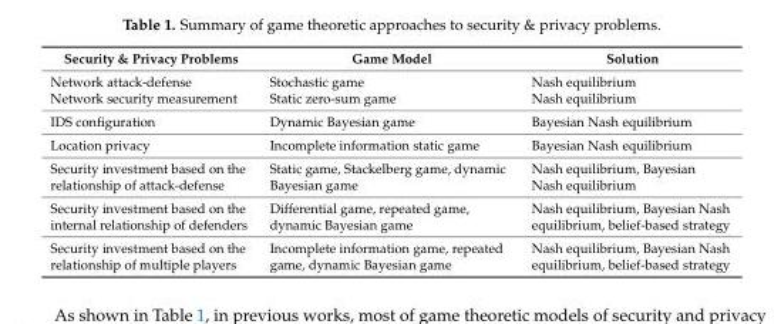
<table><thead><tr><td>Security &amp; Privacy Problems</td><td>Game Model</td><td>Solution</td></tr></thead><tbody><tr><td>Network attack-defense</td><td>Stochastic game</td><td>Nash equilibrium</td></tr><tr><td>Network security measurement</td><td>Static zero-sum game</td><td>Nash equilibrium</td></tr><tr><td>IDS configuration</td><td>Dynamic Bayesian game</td><td>Bayesian Nash equilibrium</td></tr><tr><td>Location privacy</td><td>Incomplete information static game</td><td>Bayesian Nash equilibrium</td></tr><tr><td>Security investment based on the relationship of attack-defense</td><td>Static game, Stackelberg game, dynamic Bayesian game</td><td>Nash equilibrium, Bayesian Nash equilibrium</td></tr><tr><td>Security investment based on the internal relationship of defenders</td><td>Differential game, repeated game, dynamic Bayesian game</td><td>Nash equilibrium, Bayesian Nash equilibrium, belief-based strategy</td></tr><tr><td>Security investment based on the relationship of multiple players</td><td>Incomplete information game, repeated game, dynamic Bayesian game</td><td>Nash equilibrium, Bayesian Nash equilibrium, belief-based strategy</td></tr></tbody></table>